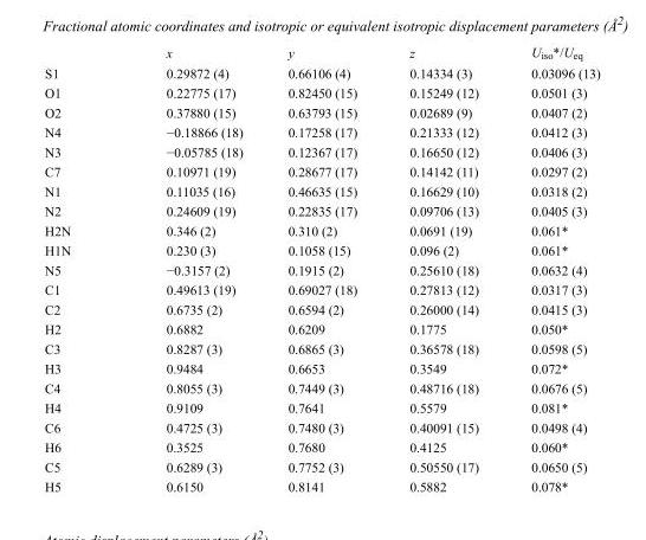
<table><thead><tr><td></td><td>x</td><td>y</td><td>z</td><td>U<sub>iso</sub>*/U<sub>eq</sub></td></tr></thead><tbody><tr><td>S1</td><td>0.29872 (4)</td><td>0.66106 (4)</td><td>0.14334 (3)</td><td>0.03096 (13)</td></tr><tr><td>O1</td><td>0.22775 (17)</td><td>0.82450 (15)</td><td>0.15249 (12)</td><td>0.0501 (3)</td></tr><tr><td>O2</td><td>0.37880 (15)</td><td>0.63793 (15)</td><td>0.02689 (9)</td><td>0.0407 (2)</td></tr><tr><td>N4</td><td>−0.18866 (18)</td><td>0.17258 (17)</td><td>0.21333 (12)</td><td>0.0412 (3)</td></tr><tr><td>N3</td><td>−0.05785 (18)</td><td>0.12367 (17)</td><td>0.16650 (12)</td><td>0.0406 (3)</td></tr><tr><td>C7</td><td>0.10971 (19)</td><td>0.28677 (17)</td><td>0.14142 (11)</td><td>0.0297 (2)</td></tr><tr><td>N1</td><td>0.11035 (16)</td><td>0.46635 (15)</td><td>0.16629 (10)</td><td>0.0318 (2)</td></tr><tr><td>N2</td><td>0.24609 (19)</td><td>0.22835 (17)</td><td>0.09706 (13)</td><td>0.0405 (3)</td></tr><tr><td>H2N</td><td>0.346 (2)</td><td>0.310 (2)</td><td>0.0691 (19)</td><td>0.061*</td></tr><tr><td>H1N</td><td>0.230 (3)</td><td>0.1058 (15)</td><td>0.096 (2)</td><td>0.061*</td></tr><tr><td>N5</td><td>−0.3157 (2)</td><td>0.1915 (2)</td><td>0.25610 (18)</td><td>0.0632 (4)</td></tr><tr><td>C1</td><td>0.49613 (19)</td><td>0.69027 (18)</td><td>0.27813 (12)</td><td>0.0317 (3)</td></tr><tr><td>C2</td><td>0.6735 (2)</td><td>0.6594 (2)</td><td>0.26000 (14)</td><td>0.0415 (3)</td></tr><tr><td>H2</td><td>0.6882</td><td>0.6209</td><td>0.1775</td><td>0.050*</td></tr><tr><td>C3</td><td>0.8287 (3)</td><td>0.6865 (3)</td><td>0.36578 (18)</td><td>0.0598 (5)</td></tr><tr><td>H3</td><td>0.9484</td><td>0.6653</td><td>0.3549</td><td>0.072*</td></tr><tr><td>C4</td><td>0.8055 (3)</td><td>0.7449 (3)</td><td>0.48716 (18)</td><td>0.0676 (5)</td></tr><tr><td>H4</td><td>0.9109</td><td>0.7641</td><td>0.5579</td><td>0.081*</td></tr><tr><td>C6</td><td>0.4725 (3)</td><td>0.7480 (3)</td><td>0.40091 (15)</td><td>0.0498 (4)</td></tr><tr><td>H6</td><td>0.3525</td><td>0.7680</td><td>0.4125</td><td>0.060*</td></tr><tr><td>C5</td><td>0.6289 (3)</td><td>0.7752 (3)</td><td>0.50550 (17)</td><td>0.0650 (5)</td></tr><tr><td>H5</td><td>0.6150</td><td>0.8141</td><td>0.5882</td><td>0.078*</td></tr></tbody></table>